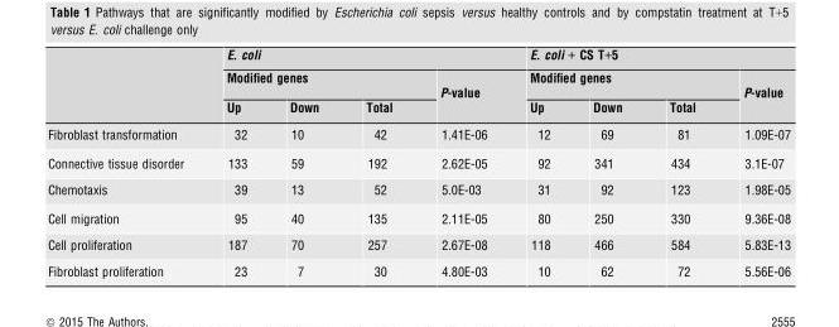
<table><thead><tr><td rowspan="3"></td><td colspan="4">E. coli</td><td colspan="4">E. coli + CS T+5</td></tr><tr><td colspan="3">Modified genes</td><td rowspan="2">P-value</td><td colspan="3">Modified genes</td><td rowspan="2">P-value</td></tr><tr><td>Up</td><td>Down</td><td>Total</td><td>Up</td><td>Down</td><td>Total</td></tr></thead><tbody><tr><td>Fibroblast transformation</td><td>32</td><td>10</td><td>42</td><td>1.41E-06</td><td>12</td><td>69</td><td>81</td><td>1.09E-07</td></tr><tr><td>Connective tissue disorder</td><td>133</td><td>59</td><td>192</td><td>2.62E-05</td><td>92</td><td>341</td><td>434</td><td>3.1E-07</td></tr><tr><td>Chemotaxis</td><td>39</td><td>13</td><td>52</td><td>5.0E-03</td><td>31</td><td>92</td><td>123</td><td>1.98E-05</td></tr><tr><td>Cell migration</td><td>95</td><td>40</td><td>135</td><td>2.11E-05</td><td>80</td><td>250</td><td>330</td><td>9.36E-08</td></tr><tr><td>Cell proliferation</td><td>187</td><td>70</td><td>257</td><td>2.67E-08</td><td>118</td><td>466</td><td>584</td><td>5.83E-13</td></tr><tr><td>Fibroblast proliferation</td><td>23</td><td>7</td><td>30</td><td>4.80E-03</td><td>10</td><td>62</td><td>72</td><td>5.56E-06</td></tr></tbody></table>